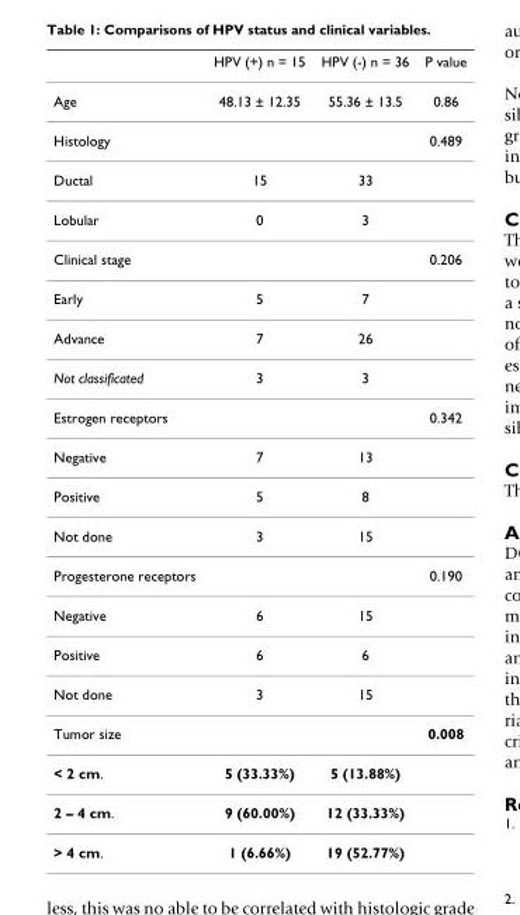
<table><thead><tr><td></td><td>HPV (+) n = 15</td><td>HPV (-) n = 36</td><td>P value</td></tr></thead><tbody><tr><td>Age</td><td>48.13 ± 12.35</td><td>55.36 ± 13.5</td><td>0.86</td></tr><tr><td>Histology</td><td></td><td></td><td>0.489</td></tr><tr><td>Ductal</td><td>15</td><td>33</td><td></td></tr><tr><td>Lobular</td><td>0</td><td>3</td><td></td></tr><tr><td>Clinical stage</td><td></td><td></td><td>0.206</td></tr><tr><td>Early</td><td>5</td><td>7</td><td></td></tr><tr><td>Advance</td><td>7</td><td>26</td><td></td></tr><tr><td>Not classificated</td><td>3</td><td>3</td><td></td></tr><tr><td>Estrogen receptors</td><td></td><td></td><td>0.342</td></tr><tr><td>Negative</td><td>7</td><td>13</td><td></td></tr><tr><td>Positive</td><td>5</td><td>8</td><td></td></tr><tr><td>Not done</td><td>3</td><td>15</td><td></td></tr><tr><td>Progesterone receptors</td><td></td><td></td><td>0.190</td></tr><tr><td>Negative</td><td>6</td><td>15</td><td></td></tr><tr><td>Positive</td><td>6</td><td>6</td><td></td></tr><tr><td>Not done</td><td>3</td><td>15</td><td></td></tr><tr><td>Tumor size</td><td></td><td></td><td>0.008</td></tr><tr><td>&lt; 2 cm.</td><td>5 (33.33%)</td><td>5 (13.88%)</td><td></td></tr><tr><td>2 – 4 cm.</td><td>9 (60.00%)</td><td>12 (33.33%)</td><td></td></tr><tr><td>&gt; 4 cm.</td><td>1 (6.66%)</td><td>19 (52.77%)</td><td></td></tr></tbody></table>